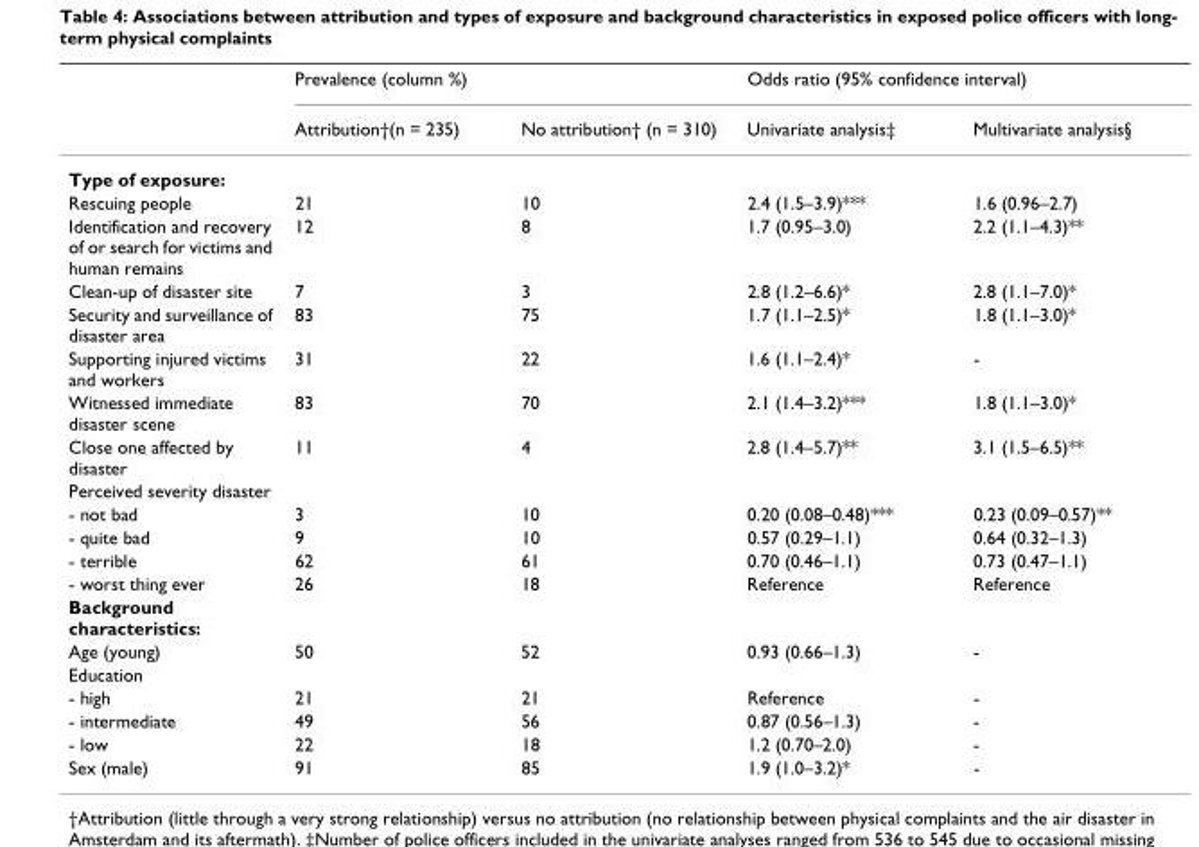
<table><thead><tr><td rowspan="2"></td><td colspan="2">Prevalence (column %)</td><td colspan="2">Odds ratio (95% confidence interval)</td></tr><tr><td>Attribution†(n = 235)</td><td>No attribution† (n = 310)</td><td>Univariate analysis‡</td><td>Multivariate analysis§</td></tr></thead><tbody><tr><td colspan="5">Type of exposure:</td></tr><tr><td>Rescuing people</td><td>21</td><td>10</td><td>2.4 (1.5–3.9)***</td><td>1.6 (0.96–2.7)</td></tr><tr><td>Identification and recovery of or search for victims and human remains</td><td>12</td><td>8</td><td>1.7 (0.95–3.0)</td><td>2.2 (1.1–4.3)**</td></tr><tr><td>Clean-up of disaster site</td><td>7</td><td>3</td><td>2.8 (1.2–6.6)*</td><td>2.8 (1.1–7.0)*</td></tr><tr><td>Security and surveillance of disaster area</td><td>83</td><td>75</td><td>1.7 (1.1–2.5)*</td><td>1.8 (1.1–3.0)*</td></tr><tr><td>Supporting injured victims and workers</td><td>31</td><td>22</td><td>1.6 (1.1–2.4)*</td><td>-</td></tr><tr><td>Witnessed immediate disaster scene</td><td>83</td><td>70</td><td>2.1 (1.4–3.2)***</td><td>1.8 (1.1–3.0)*</td></tr><tr><td>Close one affected by disaster</td><td>11</td><td>4</td><td>2.8 (1.4–5.7)**</td><td>3.1 (1.5–6.5)**</td></tr><tr><td colspan="5">Perceived severity disaster</td></tr><tr><td>- not bad</td><td>3</td><td>10</td><td>0.20 (0.08–0.48)***</td><td>0.23 (0.09–0.57)**</td></tr><tr><td>- quite bad</td><td>9</td><td>10</td><td>0.57 (0.29–1.1)</td><td>0.64 (0.32–1.3)</td></tr><tr><td>- terrible</td><td>62</td><td>61</td><td>0.70 (0.46–1.1)</td><td>0.73 (0.47–1.1)</td></tr><tr><td>- worst thing ever</td><td>26</td><td>18</td><td>Reference</td><td>Reference</td></tr><tr><td colspan="5">Background characteristics:</td></tr><tr><td>Age (young)</td><td>50</td><td>52</td><td>0.93 (0.66–1.3)</td><td>-</td></tr><tr><td colspan="5">Education</td></tr><tr><td>- high</td><td>21</td><td>21</td><td>Reference</td><td>-</td></tr><tr><td>- intermediate</td><td>49</td><td>56</td><td>0.87 (0.56–1.3)</td><td>-</td></tr><tr><td>- low</td><td>22</td><td>18</td><td>1.2 (0.70–2.0)</td><td>-</td></tr><tr><td>Sex (male)</td><td>91</td><td>85</td><td>1.9 (1.0–3.2)*</td><td>-</td></tr></tbody></table>